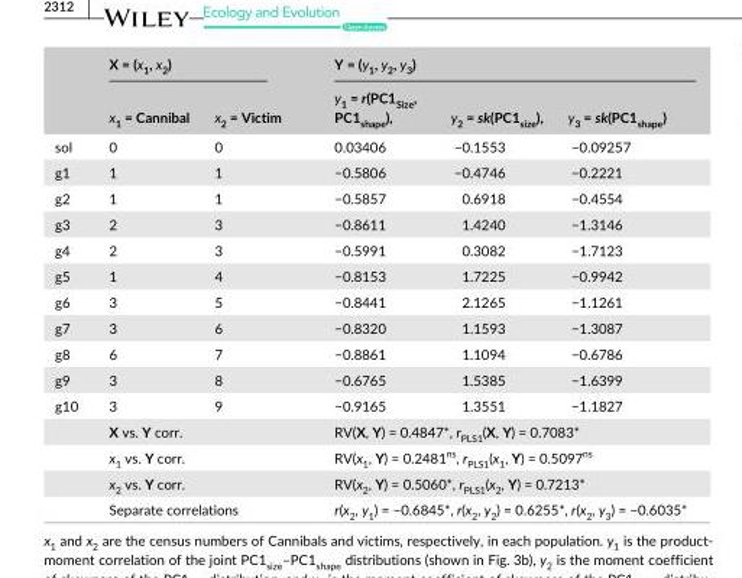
<table><thead><tr><td rowspan="2"></td><td colspan="2">X = (x<sub>1</sub>, x<sub>2</sub>)</td><td colspan="3">Y = (y<sub>1</sub>, y<sub>2</sub>, y<sub>3</sub>)</td></tr><tr><td>x<sub>1</sub> = Cannibal</td><td>x<sub>2</sub> = Victim</td><td>y<sub>1</sub> = r(PC1<sub>Size</sub>, PC1<sub>shape</sub>),</td><td>y<sub>2</sub> = sk(PC1<sub>size</sub>),</td><td>y<sub>3</sub> = sk(PC1<sub>shape</sub>)</td></tr></thead><tbody><tr><td>sol</td><td>0</td><td>0</td><td>0.03406</td><td>−0.1553</td><td>−0.09257</td></tr><tr><td>g1</td><td>1</td><td>1</td><td>−0.5806</td><td>−0.4746</td><td>−0.2221</td></tr><tr><td>g2</td><td>1</td><td>1</td><td>−0.5857</td><td>0.6918</td><td>−0.4554</td></tr><tr><td>g3</td><td>2</td><td>3</td><td>−0.8611</td><td>1.4240</td><td>−1.3146</td></tr><tr><td>g4</td><td>2</td><td>3</td><td>−0.5991</td><td>0.3082</td><td>−1.7123</td></tr><tr><td>g5</td><td>1</td><td>4</td><td>−0.8153</td><td>1.7225</td><td>−0.9942</td></tr><tr><td>g6</td><td>3</td><td>5</td><td>−0.8441</td><td>2.1265</td><td>−1.1261</td></tr><tr><td>g7</td><td>3</td><td>6</td><td>−0.8320</td><td>1.1593</td><td>−1.3087</td></tr><tr><td>g8</td><td>6</td><td>7</td><td>−0.8861</td><td>1.1094</td><td>−0.6786</td></tr><tr><td>g9</td><td>3</td><td>8</td><td>−0.6765</td><td>1.5385</td><td>−1.6399</td></tr><tr><td rowspan="5">g10</td><td>3</td><td>9</td><td>−0.9165</td><td>1.3551</td><td>−1.1827</td></tr><tr><td colspan="2">X vs. Y corr.</td><td colspan="3">RV(X, Y) = 0.4847*, r<sub>PLS1</sub>(X, Y) = 0.7083*</td></tr><tr><td colspan="2">x<sub>1</sub> vs. Y corr.</td><td colspan="3">RV(x<sub>1</sub>, Y) = 0.2481<sup>ns</sup>, r<sub>PLS1</sub>(x<sub>1</sub>, Y) = 0.5097<sup>ns</sup></td></tr><tr><td colspan="2">x<sub>2</sub> vs. Y corr.</td><td colspan="3">RV(x<sub>2</sub>, Y) = 0.5060*, r<sub>PLS1</sub>(x<sub>2</sub>, Y) = 0.7213*</td></tr><tr><td colspan="2">Separate correlations</td><td colspan="3">r(x<sub>2</sub>, y<sub>1</sub>) = −0.6845*, r(x<sub>2</sub>, y<sub>2</sub>) = 0.6255*, r(x<sub>2</sub>, y<sub>3</sub>) = −0.6035*</td></tr></tbody></table>